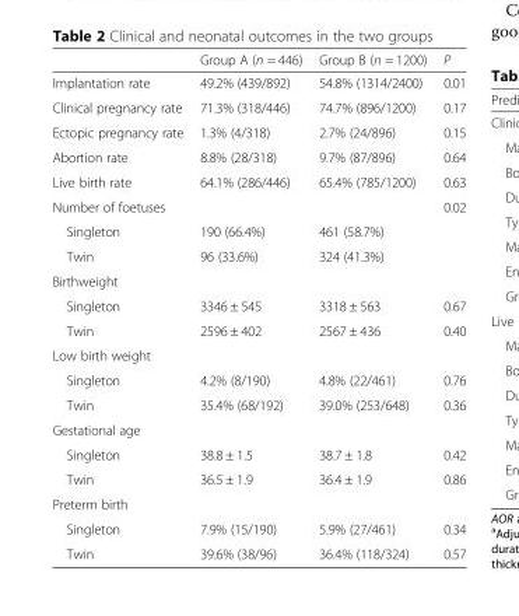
<table><thead><tr><td></td><td>Group A (n = 446)</td><td>Group B (n = 1200)</td><td>P</td></tr></thead><tbody><tr><td>Implantation rate</td><td>49.2% (439/892)</td><td>54.8% (1314/2400)</td><td>0.01</td></tr><tr><td>Clinical pregnancy rate</td><td>71.3% (318/446)</td><td>74.7% (896/1200)</td><td>0.17</td></tr><tr><td>Ectopic pregnancy rate</td><td>1.3% (4/318)</td><td>2.7% (24/896)</td><td>0.15</td></tr><tr><td>Abortion rate</td><td>8.8% (28/318)</td><td>9.7% (87/896)</td><td>0.64</td></tr><tr><td>Live birth rate</td><td>64.1% (286/446)</td><td>65.4% (785/1200)</td><td>0.63</td></tr><tr><td>Number of foetuses</td><td></td><td></td><td>0.02</td></tr><tr><td>Singleton</td><td>190 (66.4%)</td><td>461 (58.7%)</td><td></td></tr><tr><td>Twin</td><td>96 (33.6%)</td><td>324 (41.3%)</td><td></td></tr><tr><td colspan="4">Birthweight</td></tr><tr><td>Singleton</td><td>3346 ± 545</td><td>3318 ± 563</td><td>0.67</td></tr><tr><td>Twin</td><td>2596 ± 402</td><td>2567 ± 436</td><td>0.40</td></tr><tr><td colspan="4">Low birth weight</td></tr><tr><td>Singleton</td><td>4.2% (8/190)</td><td>4.8% (22/461)</td><td>0.76</td></tr><tr><td>Twin</td><td>35.4% (68/192)</td><td>39.0% (253/648)</td><td>0.36</td></tr><tr><td colspan="4">Gestational age</td></tr><tr><td>Singleton</td><td>38.8 ± 1.5</td><td>38.7 ± 1.8</td><td>0.42</td></tr><tr><td>Twin</td><td>36.5 ± 1.9</td><td>36.4 ± 1.9</td><td>0.86</td></tr><tr><td colspan="4">Preterm birth</td></tr><tr><td>Singleton</td><td>7.9% (15/190)</td><td>5.9% (27/461)</td><td>0.34</td></tr><tr><td>Twin</td><td>39.6% (38/96)</td><td>36.4% (118/324)</td><td>0.57</td></tr></tbody></table>